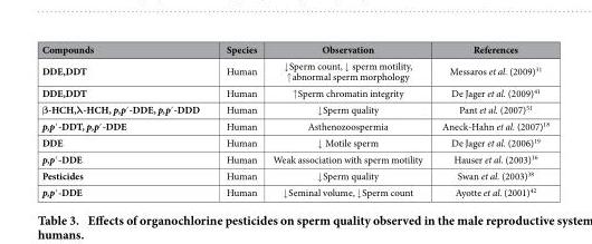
<table><thead><tr><td>Compounds</td><td>Species</td><td>Observation</td><td>References</td></tr></thead><tbody><tr><td>DDE,DDT</td><td>Human</td><td>↓ Sperm count, ↓ sperm motility, ↑ abnormal sperm morphology</td><td>Messaros et al. (2009)<sup>31</sup></td></tr><tr><td>DDE,DDT</td><td>Human</td><td>↑ Sperm chromatin integrity</td><td>De Jager et al. (2009)<sup>41</sup></td></tr><tr><td>β-HCH,λ-HCH, p,p′ -DDE, p,p′ -DDD</td><td>Human</td><td>↓ Sperm quality</td><td>Pant et al. (2007)<sup>51</sup></td></tr><tr><td>p,p′ -DDT, p,p′ -DDE</td><td>Human</td><td>Asthenozoospermia</td><td>Aneck-Hahn et al. (2007)<sup>18</sup></td></tr><tr><td>DDE</td><td>Human</td><td>↓ Motile sperm</td><td>De Jager et al. (2006)<sup>19</sup></td></tr><tr><td>p,p′ -DDE</td><td>Human</td><td>Weak association with sperm motility</td><td>Hauser et al. (2003)<sup>16</sup></td></tr><tr><td>Pesticides</td><td>Human</td><td>↓ Sperm quality</td><td>Swan et al. (2003)<sup>38</sup></td></tr><tr><td>p,p′ -DDE</td><td>Human</td><td>↓ Seminal volume, ↓ Sperm count</td><td>Ayotte et al. (2001)<sup>42</sup></td></tr></tbody></table>